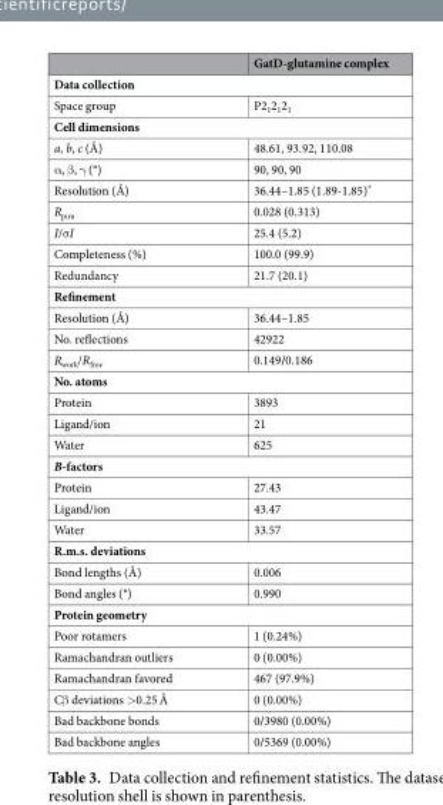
<table><thead><tr><td></td><td>GatD-glutamine complex</td></tr></thead><tbody><tr><td colspan="2">Data collection</td></tr><tr><td>Space group</td><td>P2<sub>1</sub>2<sub>1</sub>2<sub>1</sub></td></tr><tr><td colspan="2">Cell dimensions</td></tr><tr><td>a, b, c (Å)</td><td>48.61, 93.92, 110.08</td></tr><tr><td>α, β, γ (°)</td><td>90, 90, 90</td></tr><tr><td>Resolution (Å)</td><td>36.44–1.85 (1.89-1.85)*</td></tr><tr><td>R<sub>pim</sub></td><td>0.028 (0.313)</td></tr><tr><td>I/σI</td><td>25.4 (5.2)</td></tr><tr><td>Completeness (%)</td><td>100.0 (99.9)</td></tr><tr><td>Redundancy</td><td>21.7 (20.1)</td></tr><tr><td colspan="2">Refinement</td></tr><tr><td>Resolution (Å)</td><td>36.44–1.85</td></tr><tr><td>No. reflections</td><td>42922</td></tr><tr><td>R<sub>work</sub>/R<sub>free</sub></td><td>0.149/0.186</td></tr><tr><td colspan="2">No. atoms</td></tr><tr><td>Protein</td><td>3893</td></tr><tr><td>Ligand/ion</td><td>21</td></tr><tr><td>Water</td><td>625</td></tr><tr><td colspan="2">B-factors</td></tr><tr><td>Protein</td><td>27.43</td></tr><tr><td>Ligand/ion</td><td>43.47</td></tr><tr><td>Water</td><td>33.57</td></tr><tr><td colspan="2">R.m.s. deviations</td></tr><tr><td>Bond lengths (Å)</td><td>0.006</td></tr><tr><td>Bond angles (°)</td><td>0.990</td></tr><tr><td colspan="2">Protein geometry</td></tr><tr><td>Poor rotamers</td><td>1 (0.24%)</td></tr><tr><td>Ramachandran outliers</td><td>0 (0.00%)</td></tr><tr><td>Ramachandran favored</td><td>467 (97.9%)</td></tr><tr><td>Cβ deviations &gt;0.25 Å</td><td>0 (0.00%)</td></tr><tr><td>Bad backbone bonds</td><td>0/3980 (0.00%)</td></tr><tr><td>Bad backbone angles</td><td>0/5369 (0.00%)</td></tr></tbody></table>